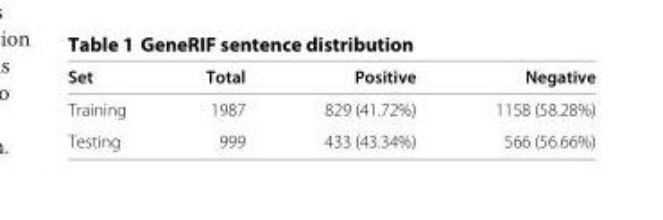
<table><thead><tr><td>Set</td><td>Total</td><td>Positive</td><td>Negative</td></tr></thead><tbody><tr><td>Training</td><td>1987</td><td>829 (41.72%)</td><td>1158 (58.28%)</td></tr><tr><td>Testing</td><td>999</td><td>433 (43.34%)</td><td>566 (56.66%)</td></tr></tbody></table>